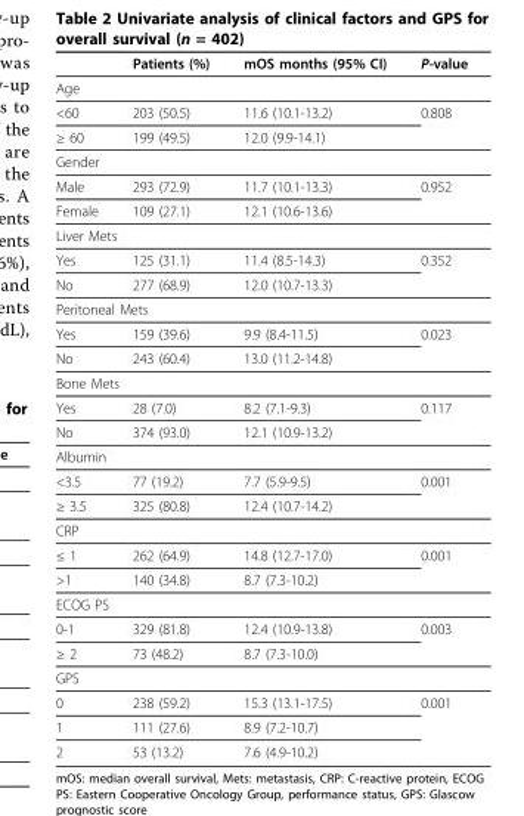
<table><thead><tr><td></td><td>Patients (%)</td><td>mOS months (95% CI)</td><td>P-value</td></tr></thead><tbody><tr><td colspan="4">Age</td></tr><tr><td>&lt;60</td><td>203 (50.5)</td><td>11.6 (10.1-13.2)</td><td>0.808</td></tr><tr><td>≥ 60</td><td>199 (49.5)</td><td>12.0 (9.9-14.1)</td><td></td></tr><tr><td colspan="4">Gender</td></tr><tr><td>Male</td><td>293 (72.9)</td><td>11.7 (10.1-13.3)</td><td>0.952</td></tr><tr><td>Female</td><td>109 (27.1)</td><td>12.1 (10.6-13.6)</td><td></td></tr><tr><td colspan="4">Liver Mets</td></tr><tr><td>Yes</td><td>125 (31.1)</td><td>11.4 (8.5-14.3)</td><td>0.352</td></tr><tr><td>No</td><td>277 (68.9)</td><td>12.0 (10.7-13.3)</td><td></td></tr><tr><td colspan="4">Peritoneal Mets</td></tr><tr><td>Yes</td><td>159 (39.6)</td><td>9.9 (8.4-11.5)</td><td>0.023</td></tr><tr><td>No</td><td>243 (60.4)</td><td>13.0 (11.2-14.8)</td><td></td></tr><tr><td colspan="4">Bone Mets</td></tr><tr><td>Yes</td><td>28 (7.0)</td><td>8.2 (7.1-9.3)</td><td>0.117</td></tr><tr><td>No</td><td>374 (93.0)</td><td>12.1 (10.9-13.2)</td><td></td></tr><tr><td colspan="4">Albumin</td></tr><tr><td>&lt;3.5</td><td>77 (19.2)</td><td>7.7 (5.9-9.5)</td><td>0.001</td></tr><tr><td>≥ 3.5</td><td>325 (80.8)</td><td>12.4 (10.7-14.2)</td><td></td></tr><tr><td colspan="4">CRP</td></tr><tr><td>≤ 1</td><td>262 (64.9)</td><td>14.8 (12.7-17.0)</td><td>0.001</td></tr><tr><td>&gt;1</td><td>140 (34.8)</td><td>8.7 (7.3-10.2)</td><td></td></tr><tr><td colspan="4">ECOG PS</td></tr><tr><td>0-1</td><td>329 (81.8)</td><td>12.4 (10.9-13.8)</td><td>0.003</td></tr><tr><td>≥ 2</td><td>73 (48.2)</td><td>8.7 (7.3-10.0)</td><td></td></tr><tr><td colspan="4">GPS</td></tr><tr><td>0</td><td>238 (59.2)</td><td>15.3 (13.1-17.5)</td><td>0.001</td></tr><tr><td>1</td><td>111 (27.6)</td><td>8.9 (7.2-10.7)</td><td></td></tr><tr><td>2</td><td>53 (13.2)</td><td>7.6 (4.9-10.2)</td><td></td></tr></tbody></table>